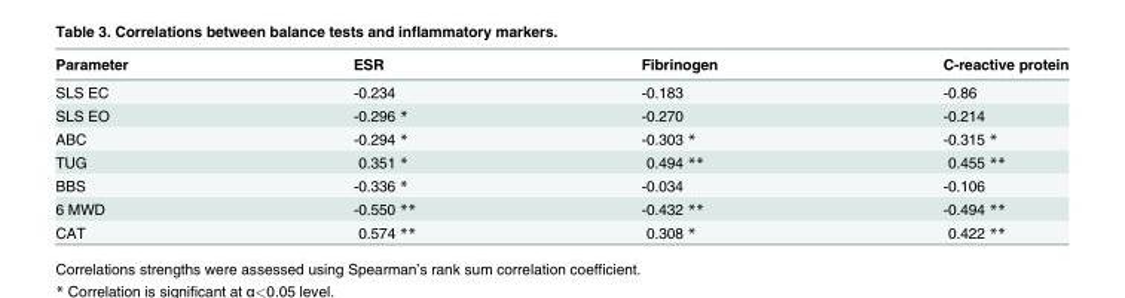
<table><thead><tr><td>Parameter</td><td>ESR</td><td>Fibrinogen</td><td>C-reactive protein</td></tr></thead><tbody><tr><td>SLS EC</td><td>-0.234</td><td>-0.183</td><td>-0.86</td></tr><tr><td>SLS EO</td><td>-0.296 *</td><td>-0.270</td><td>-0.214</td></tr><tr><td>ABC</td><td>-0.294 *</td><td>-0.303 *</td><td>-0.315 *</td></tr><tr><td>TUG</td><td>0.351 *</td><td>0.494 **</td><td>0.455 **</td></tr><tr><td>BBS</td><td>-0.336 *</td><td>-0.034</td><td>-0.106</td></tr><tr><td>6 MWD</td><td>-0.550 **</td><td>-0.432 **</td><td>-0.494 **</td></tr><tr><td>CAT</td><td>0.574 **</td><td>0.308 *</td><td>0.422 **</td></tr></tbody></table>